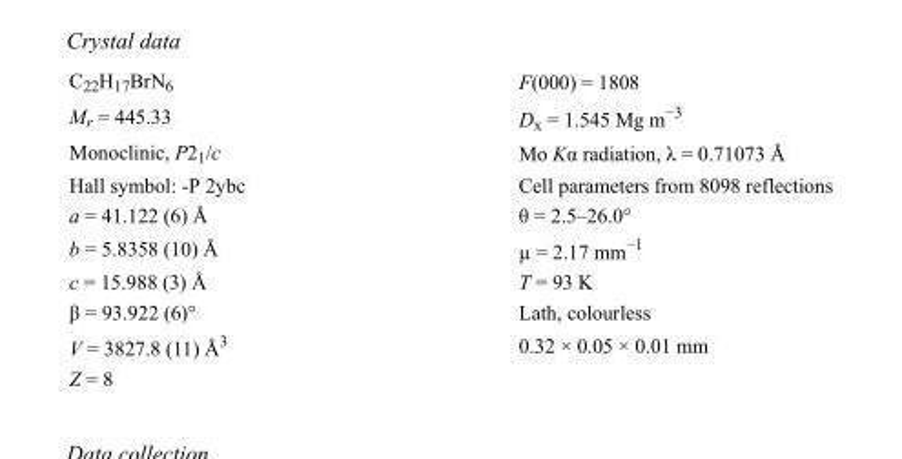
<table><tbody><tr><td>C<sub>22</sub>H<sub>17</sub>BrN<sub>6</sub></td><td>F(000) = 1808</td></tr><tr><td>M<sub>r</sub> = 445.33</td><td>D<sub>x</sub> = 1.545 Mg m<sup>−3</sup></td></tr><tr><td>Monoclinic, P2<sub>1</sub>/c</td><td>Mo Kα radiation, λ = 0.71073 Å</td></tr><tr><td>Hall symbol: -P 2ybc</td><td>Cell parameters from 8098 reflections</td></tr><tr><td>a = 41.122 (6) Å</td><td>θ = 2.5–26.0°</td></tr><tr><td>b = 5.8358 (10) Å</td><td>µ = 2.17 mm<sup>−1</sup></td></tr><tr><td>c = 15.988 (3) Å</td><td>T = 93 K</td></tr><tr><td>β = 93.922 (6)°</td><td>Lath, colourless</td></tr><tr><td>V = 3827.8 (11) Å<sup>3</sup></td><td>0.32 × 0.05 × 0.01 mm</td></tr><tr><td>Z = 8</td><td></td></tr></tbody></table>